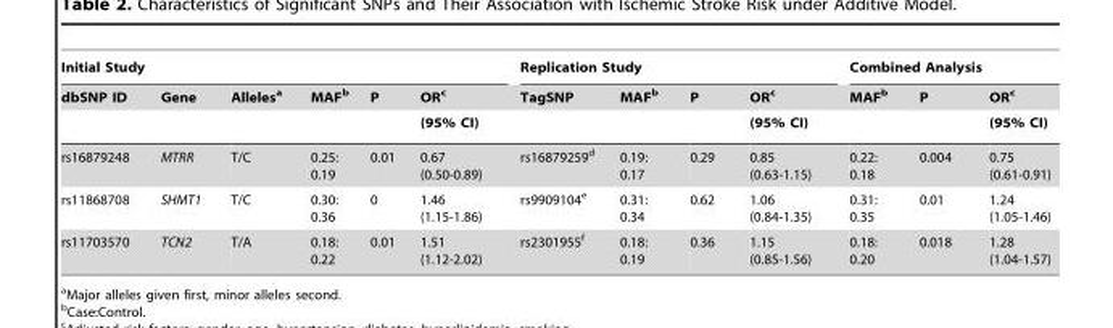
<table><thead><tr><td colspan="6">Initial Study</td><td colspan="4">Replication Study</td><td colspan="3">Combined Analysis</td></tr><tr><td rowspan="2">dbSNP ID</td><td rowspan="2">Gene</td><td rowspan="2">Alleles<sup>a</sup></td><td rowspan="2">MAF<sup>b</sup></td><td rowspan="2">P</td><td rowspan="2">OR<sup>c</sup> (95% CI)</td><td rowspan="2">TagSNP</td><td rowspan="2">MAF<sup>b</sup></td><td rowspan="2">P</td><td rowspan="2">OR<sup>c</sup> (95% CI)</td><td rowspan="2">MAF<sup>b</sup></td><td rowspan="2">P</td><td rowspan="2">OR<sup>c</sup> (95% CI)</td></tr><tr></tr></thead><tbody><tr><td>rs16879248</td><td>MTRR</td><td>T/C</td><td>0.25: 0.19</td><td>0.01</td><td>0.67 (0.50-0.89)</td><td>rs16879259<sup>d</sup></td><td>0.19: 0.17</td><td>0.29</td><td>0.85 (0.63-1.15)</td><td>0.22: 0.18</td><td>0.004</td><td>0.75 (0.61-0.91)</td></tr><tr><td>rs11868708</td><td>SHMT1</td><td>T/C</td><td>0.30: 0.36</td><td>0</td><td>1.46 (1.15-1.86)</td><td>rs9909104<sup>e</sup></td><td>0.31: 0.34</td><td>0.62</td><td>1.06 (0.84-1.35)</td><td>0.31: 0.35</td><td>0.01</td><td>1.24 (1.05-1.46)</td></tr><tr><td>rs11703570</td><td>TCN2</td><td>T/A</td><td>0.18: 0.22</td><td>0.01</td><td>1.51 (1.12-2.02)</td><td>rs2301955<sup>f</sup></td><td>0.18: 0.19</td><td>0.36</td><td>1.15 (0.85-1.56)</td><td>0.18: 0.20</td><td>0.018</td><td>1.28 (1.04-1.57)</td></tr></tbody></table>